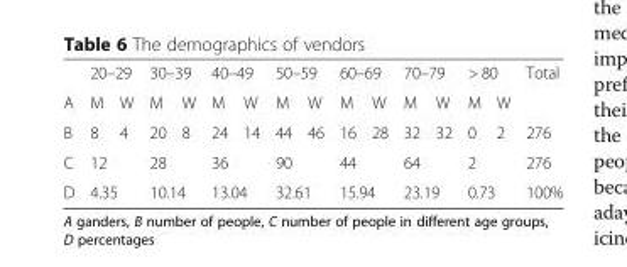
<table><thead><tr><td rowspan="2">A</td><td colspan="2">20–29</td><td colspan="2">30–39</td><td colspan="2">40–49</td><td colspan="2">50–59</td><td colspan="2">60–69</td><td colspan="2">70–79</td><td colspan="2">&gt; 80</td><td rowspan="2">Total</td></tr><tr><td>M</td><td>W</td><td>M</td><td>W</td><td>M</td><td>W</td><td>M</td><td>W</td><td>M</td><td>W</td><td>M</td><td>W</td><td>M</td><td>W</td></tr></thead><tbody><tr><td>B</td><td>8</td><td>4</td><td>20</td><td>8</td><td>24</td><td>14</td><td>44</td><td>46</td><td>16</td><td>28</td><td>32</td><td>32</td><td>0</td><td>2</td><td>276</td></tr><tr><td>C</td><td colspan="2">12</td><td colspan="2">28</td><td colspan="2">36</td><td colspan="2">90</td><td colspan="2">44</td><td colspan="2">64</td><td colspan="2">2</td><td>276</td></tr><tr><td>D</td><td colspan="2">4.35</td><td colspan="2">10.14</td><td colspan="2">13.04</td><td colspan="2">32.61</td><td colspan="2">15.94</td><td colspan="2">23.19</td><td colspan="2">0.73</td><td>100%</td></tr></tbody></table>